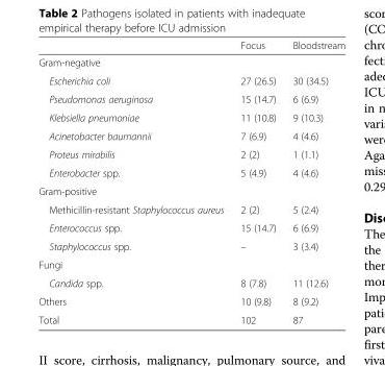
<table><thead><tr><td></td><td>Focus</td><td>Bloodstream</td></tr></thead><tbody><tr><td colspan="3">Gram-negative</td></tr><tr><td>Escherichia coli</td><td>27 (26.5)</td><td>30 (34.5)</td></tr><tr><td>Pseudomonas aeruginosa</td><td>15 (14.7)</td><td>6 (6.9)</td></tr><tr><td>Klebsiella pneumoniae</td><td>11 (10.8)</td><td>9 (10.3)</td></tr><tr><td>Acinetobacter baumannii</td><td>7 (6.9)</td><td>4 (4.6)</td></tr><tr><td>Proteus mirabilis</td><td>2 (2)</td><td>1 (1.1)</td></tr><tr><td>Enterobacter spp.</td><td>5 (4.9)</td><td>4 (4.6)</td></tr><tr><td colspan="3">Gram-positive</td></tr><tr><td>Methicillin-resistant Staphylococcus aureus</td><td>2 (2)</td><td>5 (2.4)</td></tr><tr><td>Enterococcus spp.</td><td>15 (14.7)</td><td>6 (6.9)</td></tr><tr><td>Staphylococcus spp.</td><td>–</td><td>3 (3.4)</td></tr><tr><td colspan="3">Fungi</td></tr><tr><td>Candida spp.</td><td>8 (7.8)</td><td>11 (12.6)</td></tr><tr><td>Others</td><td>10 (9.8)</td><td>8 (9.2)</td></tr><tr><td>Total</td><td>102</td><td>87</td></tr></tbody></table>